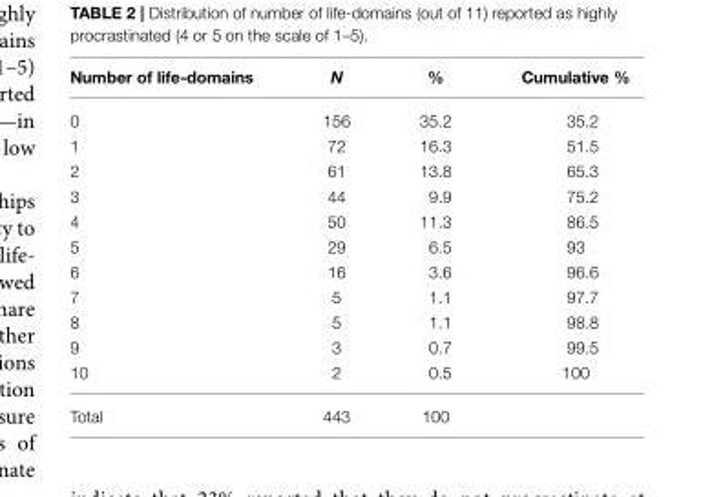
<table><thead><tr><td>Number of life-domains</td><td>N</td><td>%</td><td>Cumulative %</td></tr></thead><tbody><tr><td>0</td><td>156</td><td>35.2</td><td>35.2</td></tr><tr><td>1</td><td>72</td><td>16.3</td><td>51.5</td></tr><tr><td>2</td><td>61</td><td>13.8</td><td>65.3</td></tr><tr><td>3</td><td>44</td><td>9.9</td><td>75.2</td></tr><tr><td>4</td><td>50</td><td>11.3</td><td>86.5</td></tr><tr><td>5</td><td>29</td><td>6.5</td><td>93</td></tr><tr><td>6</td><td>16</td><td>3.6</td><td>96.6</td></tr><tr><td>7</td><td>5</td><td>1.1</td><td>97.7</td></tr><tr><td>8</td><td>5</td><td>1.1</td><td>98.8</td></tr><tr><td>9</td><td>3</td><td>0.7</td><td>99.5</td></tr><tr><td>10</td><td>2</td><td>0.5</td><td>100</td></tr><tr><td>Total</td><td>443</td><td>100</td><td></td></tr></tbody></table>